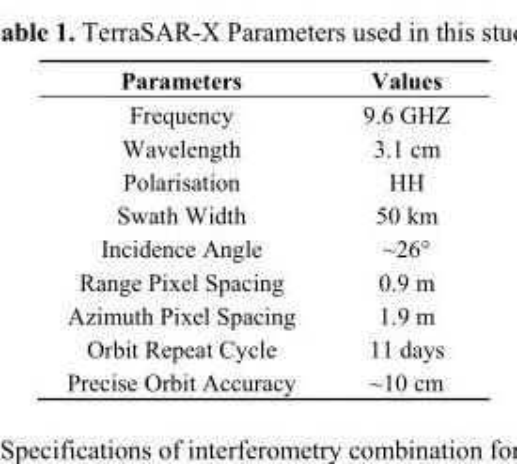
<table><thead><tr><td>Parameters</td><td>Values</td></tr></thead><tbody><tr><td>Frequency</td><td>9.6 GHZ</td></tr><tr><td>Wavelength</td><td>3.1 cm</td></tr><tr><td>Polarisation</td><td>HH</td></tr><tr><td>Swath Width</td><td>50 km</td></tr><tr><td>Incidence Angle</td><td>~26°</td></tr><tr><td>Range Pixel Spacing</td><td>0.9 m</td></tr><tr><td>Azimuth Pixel Spacing</td><td>1.9 m</td></tr><tr><td>Orbit Repeat Cycle</td><td>11 days</td></tr><tr><td>Precise Orbit Accuracy</td><td>~10 cm</td></tr></tbody></table>